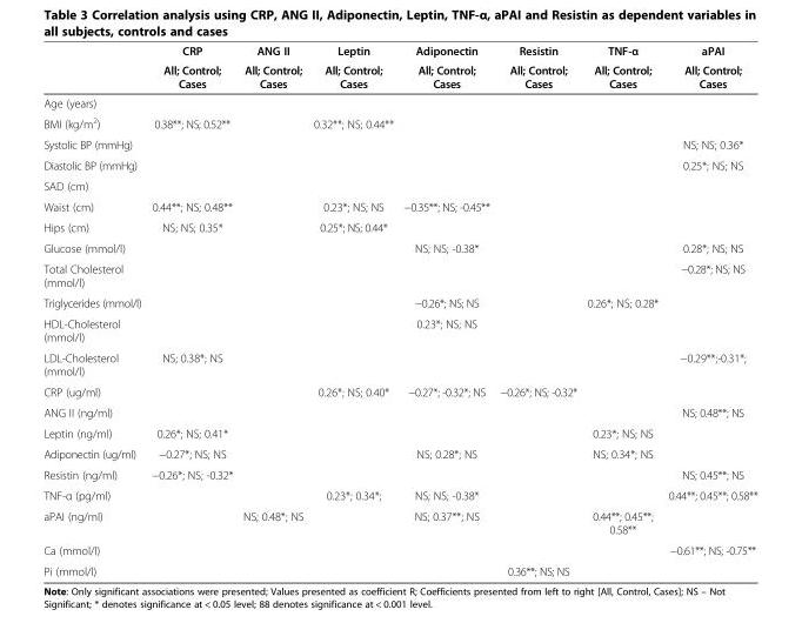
<table><thead><tr><td rowspan="2"></td><td rowspan="2">CRP All; Control; Cases</td><td rowspan="2">ANG II All; Control; Cases</td><td rowspan="2">Leptin All; Control; Cases</td><td rowspan="2">Adiponectin All; Control; Cases</td><td rowspan="2">Resistin All; Control; Cases</td><td rowspan="2">TNF-α All; Control; Cases</td><td rowspan="2">aPAI All; Control; Cases</td></tr><tr></tr></thead><tbody><tr><td colspan="8">Age (years)</td></tr><tr><td>BMI (kg/m<sup>2</sup>)</td><td>0.38**; NS; 0.52**</td><td></td><td>0.32**; NS; 0.44**</td><td></td><td></td><td></td><td></td></tr><tr><td>Systolic BP (mmHg)</td><td></td><td></td><td></td><td></td><td></td><td></td><td>NS; NS; 0.36*</td></tr><tr><td>Diastolic BP (mmHg)</td><td></td><td></td><td></td><td></td><td></td><td></td><td>0.25*; NS; NS</td></tr><tr><td colspan="8">SAD (cm)</td></tr><tr><td>Waist (cm)</td><td>0.44**; NS; 0.48**</td><td></td><td>0.23*; NS; NS</td><td>−0.35**; NS; -0.45**</td><td></td><td></td><td></td></tr><tr><td>Hips (cm)</td><td>NS; NS; 0.35*</td><td></td><td>0.25*; NS; 0.44*</td><td></td><td></td><td></td><td></td></tr><tr><td>Glucose (mmol/l)</td><td></td><td></td><td></td><td>NS; NS; -0.38*</td><td></td><td></td><td>0.28*; NS; NS</td></tr><tr><td>Total Cholesterol (mmol/l)</td><td></td><td></td><td></td><td></td><td></td><td></td><td>−0.28*; NS; NS</td></tr><tr><td>Triglycerides (mmol/l)</td><td></td><td></td><td></td><td>−0.26*; NS; NS</td><td></td><td>0.26*; NS; 0.28*</td><td></td></tr><tr><td>HDL-Cholesterol (mmol/l)</td><td></td><td></td><td></td><td>0.23*; NS; NS</td><td></td><td></td><td></td></tr><tr><td>LDL-Cholesterol (mmol/l)</td><td>NS; 0.38*; NS</td><td></td><td></td><td></td><td></td><td></td><td>−0.29**;-0.31*;</td></tr><tr><td>CRP (ug/ml)</td><td></td><td></td><td>0.26*; NS; 0.40*</td><td>−0.27*; -0.32*; NS</td><td>−0.26*; NS; -0.32*</td><td></td><td></td></tr><tr><td>ANG II (ng/ml)</td><td></td><td></td><td></td><td></td><td></td><td></td><td>NS; 0.48**; NS</td></tr><tr><td>Leptin (ng/ml)</td><td>0.26*; NS; 0.41*</td><td></td><td></td><td></td><td></td><td>0.23*; NS; NS</td><td></td></tr><tr><td>Adiponectin (ug/ml)</td><td>−0.27*; NS; NS</td><td></td><td></td><td>NS; 0.28*; NS</td><td></td><td>NS; 0.34*; NS</td><td></td></tr><tr><td>Resistin (ng/ml)</td><td>−0.26*; NS; -0.32*</td><td></td><td></td><td></td><td></td><td></td><td>NS; 0.45**; NS</td></tr><tr><td>TNF-α (pg/ml)</td><td></td><td></td><td>0.23*; 0.34*;</td><td>NS; NS; -0.38*</td><td></td><td></td><td>0.44**; 0.45**; 0.58**</td></tr><tr><td>aPAI (ng/ml)</td><td></td><td>NS; 0.48*; NS</td><td></td><td>NS; 0.37**; NS</td><td></td><td>0.44**; 0.45**; 0.58**</td><td></td></tr><tr><td>Ca (mmol/l)</td><td></td><td></td><td></td><td></td><td></td><td></td><td>−0.61**; NS; -0.75**</td></tr><tr><td>Pi (mmol/l)</td><td></td><td></td><td></td><td></td><td>0.36**; NS; NS</td><td></td><td></td></tr></tbody></table>